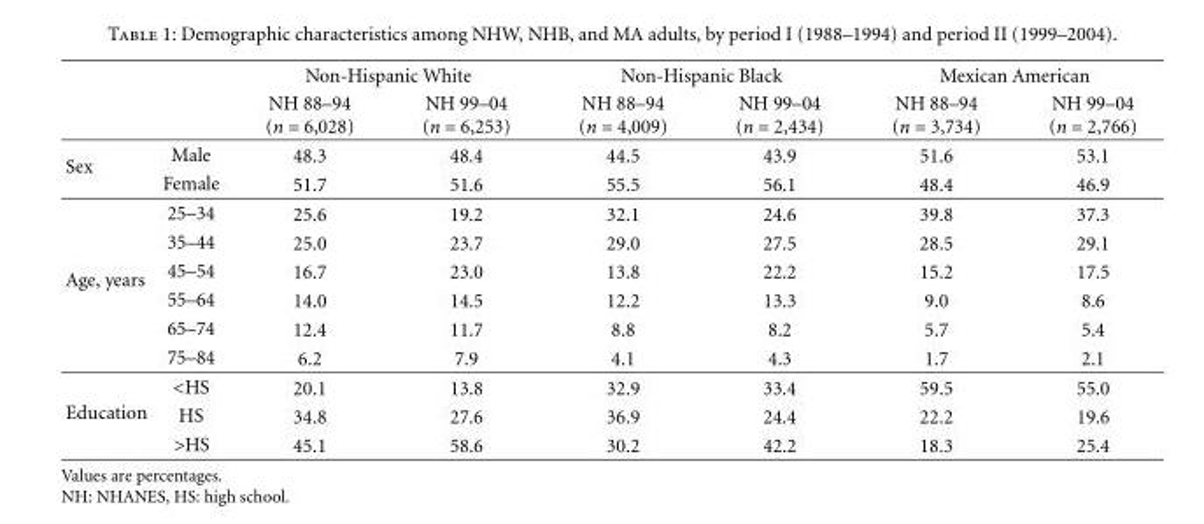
<table><thead><tr><td rowspan="2"></td><td rowspan="2"></td><td colspan="2">Non-Hispanic White</td><td colspan="2">Non-Hispanic Black</td><td colspan="2">Mexican American</td></tr><tr><td>NH 88–94 (n = 6,028)</td><td>NH 99–04 (n = 6,253)</td><td>NH 88–94 (n = 4,009)</td><td>NH 99–04 (n = 2,434)</td><td>NH 88–94 (n = 3,734)</td><td>NH 99–04 (n = 2,766)</td></tr></thead><tbody><tr><td rowspan="2">Sex</td><td>Male</td><td>48.3</td><td>48.4</td><td>44.5</td><td>43.9</td><td>51.6</td><td>53.1</td></tr><tr><td>Female</td><td>51.7</td><td>51.6</td><td>55.5</td><td>56.1</td><td>48.4</td><td>46.9</td></tr><tr><td rowspan="6">Age, years</td><td>25–34</td><td>25.6</td><td>19.2</td><td>32.1</td><td>24.6</td><td>39.8</td><td>37.3</td></tr><tr><td>35–44</td><td>25.0</td><td>23.7</td><td>29.0</td><td>27.5</td><td>28.5</td><td>29.1</td></tr><tr><td>45–54</td><td>16.7</td><td>23.0</td><td>13.8</td><td>22.2</td><td>15.2</td><td>17.5</td></tr><tr><td>55–64</td><td>14.0</td><td>14.5</td><td>12.2</td><td>13.3</td><td>9.0</td><td>8.6</td></tr><tr><td>65–74</td><td>12.4</td><td>11.7</td><td>8.8</td><td>8.2</td><td>5.7</td><td>5.4</td></tr><tr><td>75–84</td><td>6.2</td><td>7.9</td><td>4.1</td><td>4.3</td><td>1.7</td><td>2.1</td></tr><tr><td rowspan="3">Education</td><td>&lt;HS</td><td>20.1</td><td>13.8</td><td>32.9</td><td>33.4</td><td>59.5</td><td>55.0</td></tr><tr><td>HS</td><td>34.8</td><td>27.6</td><td>36.9</td><td>24.4</td><td>22.2</td><td>19.6</td></tr><tr><td>&gt;HS</td><td>45.1</td><td>58.6</td><td>30.2</td><td>42.2</td><td>18.3</td><td>25.4</td></tr></tbody></table>